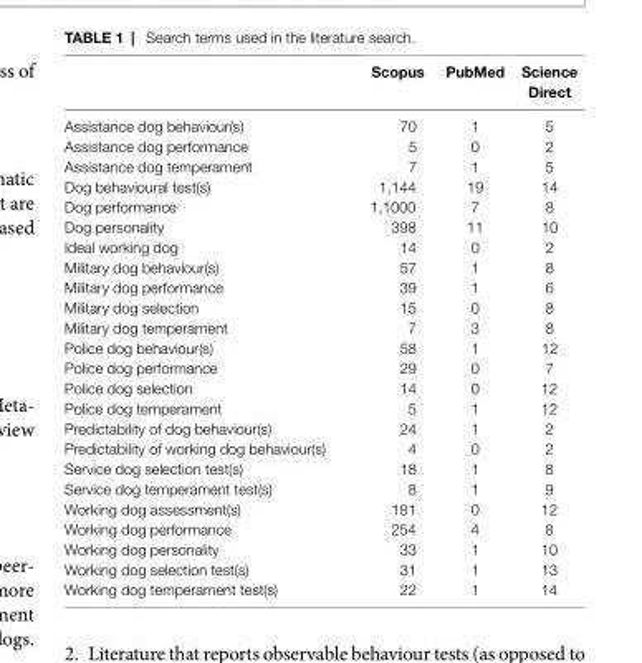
<table><thead><tr><td></td><td>Scopus</td><td>Pubmed</td><td>Science Direct</td></tr></thead><tbody><tr><td>Assistance dog behaviour(s)</td><td>70</td><td>1</td><td>5</td></tr><tr><td>Assistance dog performance</td><td>5</td><td>0</td><td>2</td></tr><tr><td>Assistance dog temperament</td><td>7</td><td>1</td><td>5</td></tr><tr><td>Dog behavioural test(s)</td><td>1,144</td><td>19</td><td>14</td></tr><tr><td>Dog performance</td><td>1,1000</td><td>7</td><td>8</td></tr><tr><td>Dog personality</td><td>398</td><td>11</td><td>10</td></tr><tr><td>Ideal working dog</td><td>14</td><td>0</td><td>2</td></tr><tr><td>Military dog behaviour(s)</td><td>57</td><td>1</td><td>8</td></tr><tr><td>Military dog performance</td><td>39</td><td>1</td><td>6</td></tr><tr><td>Military dog selection</td><td>15</td><td>0</td><td>8</td></tr><tr><td>Military dog temperament</td><td>7</td><td>3</td><td>8</td></tr><tr><td>Police dog behaviour(s)</td><td>58</td><td>1</td><td>12</td></tr><tr><td>Police dog performance</td><td>29</td><td>0</td><td>7</td></tr><tr><td>Police dog selection</td><td>14</td><td>0</td><td>12</td></tr><tr><td>Police dog temperament</td><td>5</td><td>1</td><td>12</td></tr><tr><td>Predictability of dog behaviour(s)</td><td>24</td><td>1</td><td>2</td></tr><tr><td>Predictability of working dog behaviour(s)</td><td>4</td><td>0</td><td>2</td></tr><tr><td>Service dog selection test(s)</td><td>18</td><td>1</td><td>8</td></tr><tr><td>Service dog temperament test(s)</td><td>8</td><td>1</td><td>9</td></tr><tr><td>Working dog assessment(s)</td><td>181</td><td>0</td><td>12</td></tr><tr><td>Working dog performance</td><td>254</td><td>4</td><td>8</td></tr><tr><td>Working dog personality</td><td>33</td><td>1</td><td>10</td></tr><tr><td>Working dog selection test(s)</td><td>31</td><td>1</td><td>13</td></tr><tr><td>Working dog temperament test(s)</td><td>22</td><td>1</td><td>14</td></tr></tbody></table>